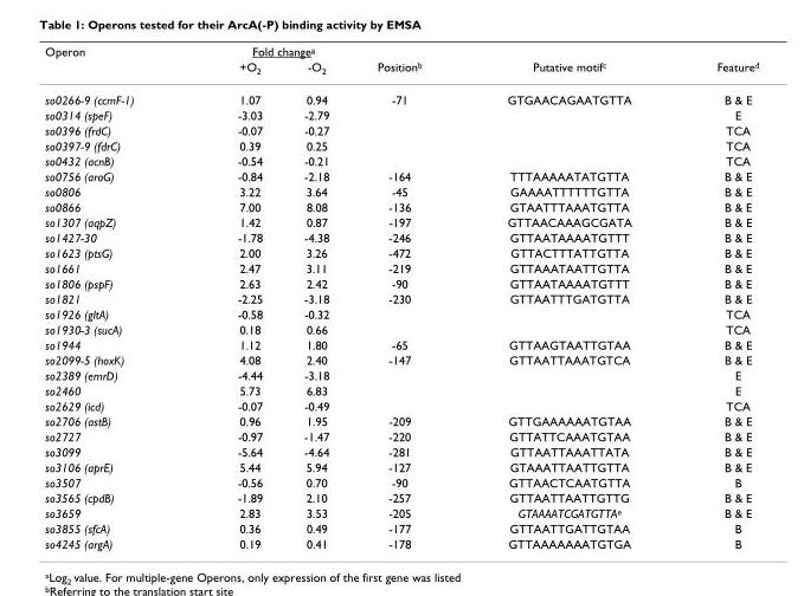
<table><thead><tr><td rowspan="2">Operon</td><td colspan="2">Fold change<sup>a</sup></td><td rowspan="2">Position<sup>b</sup></td><td rowspan="2">Putative motif<sup>c</sup></td><td rowspan="2">Feature<sup>d</sup></td></tr><tr><td>+O<sub>2</sub></td><td>-O<sub>2</sub></td></tr></thead><tbody><tr><td>so0266-9 (ccmF-1)</td><td>1.07</td><td>0.94</td><td>-71</td><td>GTGAACAGAATGTTA</td><td>B &amp; E</td></tr><tr><td>so0314 (speF)</td><td>-3.03</td><td>-2.79</td><td></td><td></td><td>E</td></tr><tr><td>so0396 (frdC)</td><td>-0.07</td><td>-0.27</td><td></td><td></td><td>TCA</td></tr><tr><td>so0397-9 (fdrC)</td><td>0.39</td><td>0.25</td><td></td><td></td><td>TCA</td></tr><tr><td>so0432 (acnB)</td><td>-0.54</td><td>-0.21</td><td></td><td></td><td>TCA</td></tr><tr><td>so0756 (aroG)</td><td>-0.84</td><td>-2.18</td><td>-164</td><td>TTTAAAAATATGTTA</td><td>B &amp; E</td></tr><tr><td>so0806</td><td>3.22</td><td>3.64</td><td>-45</td><td>GAAAATTTTTTGTTA</td><td>B &amp; E</td></tr><tr><td>so0866</td><td>7.00</td><td>8.08</td><td>-136</td><td>GTAATTTAAATGTTA</td><td>B &amp; E</td></tr><tr><td>so1307 (aqpZ)</td><td>1.42</td><td>0.87</td><td>-197</td><td>GTTAACAAAGCGATA</td><td>B &amp; E</td></tr><tr><td>so1427-30</td><td>-1.78</td><td>-4.38</td><td>-246</td><td>GTTAATAAAATGTTT</td><td>B &amp; E</td></tr><tr><td>so1623 (ptsG)</td><td>2.00</td><td>3.26</td><td>-472</td><td>GTTACTTTATTGTTA</td><td>B &amp; E</td></tr><tr><td>so1661</td><td>2.47</td><td>3.11</td><td>-219</td><td>GTTAAATAATTGTTA</td><td>B &amp; E</td></tr><tr><td>so1806 (pspF)</td><td>2.63</td><td>2.42</td><td>-90</td><td>GTTAATAAAATGTTT</td><td>B &amp; E</td></tr><tr><td>so1821</td><td>-2.25</td><td>-3.18</td><td>-230</td><td>GTTAATTTGATGTTA</td><td>B &amp; E</td></tr><tr><td>so1926 (gltA)</td><td>-0.58</td><td>-0.32</td><td></td><td></td><td>TCA</td></tr><tr><td>so1930-3 (sucA)</td><td>0.18</td><td>0.66</td><td></td><td></td><td>TCA</td></tr><tr><td>so1944</td><td>1.12</td><td>1.80</td><td>-65</td><td>GTTAAGTAATTGTAA</td><td>B &amp; E</td></tr><tr><td>so2099-5 (hoxK)</td><td>4.08</td><td>2.40</td><td>-147</td><td>GTTAATTAAATGTCA</td><td>B &amp; E</td></tr><tr><td>so2389 (emrD)</td><td>-4.44</td><td>-3.18</td><td></td><td></td><td>E</td></tr><tr><td>so2460</td><td>5.73</td><td>6.83</td><td></td><td></td><td>E</td></tr><tr><td>so2629 (icd)</td><td>-0.07</td><td>-0.49</td><td></td><td></td><td>TCA</td></tr><tr><td>so2706 (astB)</td><td>0.96</td><td>1.95</td><td>-209</td><td>GTTGAAAAAATGTAA</td><td>B &amp; E</td></tr><tr><td>so2727</td><td>-0.97</td><td>-1.47</td><td>-220</td><td>GTTATTCAAATGTAA</td><td>B &amp; E</td></tr><tr><td>so3099</td><td>-5.64</td><td>-4.64</td><td>-281</td><td>GTTAATTAAATTATA</td><td>B &amp; E</td></tr><tr><td>so3106 (aprE)</td><td>5.44</td><td>5.94</td><td>-127</td><td>GTAAATTAATTGTTA</td><td>B &amp; E</td></tr><tr><td>so3507</td><td>-0.56</td><td>0.70</td><td>-90</td><td>GTTAACTCAATGTTA</td><td>B</td></tr><tr><td>so3565 (cpdB)</td><td>-1.89</td><td>2.10</td><td>-257</td><td>GTTAATTAATTGTTG</td><td>B &amp; E</td></tr><tr><td>so3659</td><td>2.83</td><td>3.53</td><td>-205</td><td>GTAAAATCGATGTTA<sup>e</sup></td><td>B &amp; E</td></tr><tr><td>so3855 (sfcA)</td><td>0.36</td><td>0.49</td><td>-177</td><td>GTTAATTGATTGTAA</td><td>B</td></tr><tr><td>so4245 (argA)</td><td>0.19</td><td>0.41</td><td>-178</td><td>GTTAAAAAAATGTGA</td><td>B</td></tr></tbody></table>